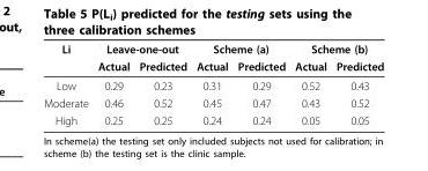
<table><thead><tr><td rowspan="2">Li</td><td colspan="2">Leave-one-out</td><td colspan="2">Scheme (a)</td><td colspan="2">Scheme (b)</td></tr><tr><td>Actual</td><td>Predicted</td><td>Actual</td><td>Predicted</td><td>Actual</td><td>Predicted</td></tr></thead><tbody><tr><td>Low</td><td>0.29</td><td>0.23</td><td>0.31</td><td>0.29</td><td>0.52</td><td>0.43</td></tr><tr><td>Moderate</td><td>0.46</td><td>0.52</td><td>0.45</td><td>0.47</td><td>0.43</td><td>0.52</td></tr><tr><td>High</td><td>0.25</td><td>0.25</td><td>0.24</td><td>0.24</td><td>0.05</td><td>0.05</td></tr></tbody></table>